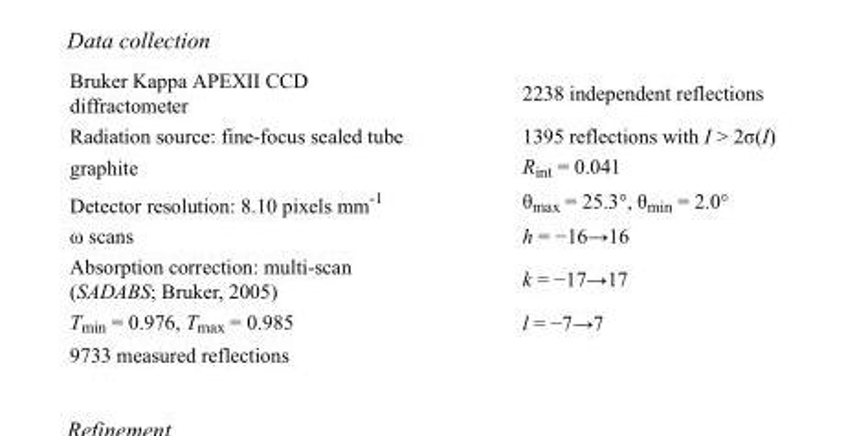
<table><tbody><tr><td>Bruker Kappa APEXII CCD diffractometer</td><td>2238 independent reflections</td></tr><tr><td>Radiation source: fine-focus sealed tube</td><td>1395 reflections with I &gt; 2σ(I)</td></tr><tr><td>graphite</td><td>R<sub>int</sub> = 0.041</td></tr><tr><td>Detector resolution: 8.10 pixels mm<sup>-1</sup></td><td>θ<sub>max</sub> = 25.3°, θ<sub>min</sub> = 2.0°</td></tr><tr><td>ω scans</td><td>h = −16→16</td></tr><tr><td>Absorption correction: multi-scan (SADABS; Bruker, 2005)</td><td>k = −17→17</td></tr><tr><td>T<sub>min</sub> = 0.976, T<sub>max</sub> = 0.985</td><td>l = −7→7</td></tr><tr><td>9733 measured reflections</td><td></td></tr></tbody></table>